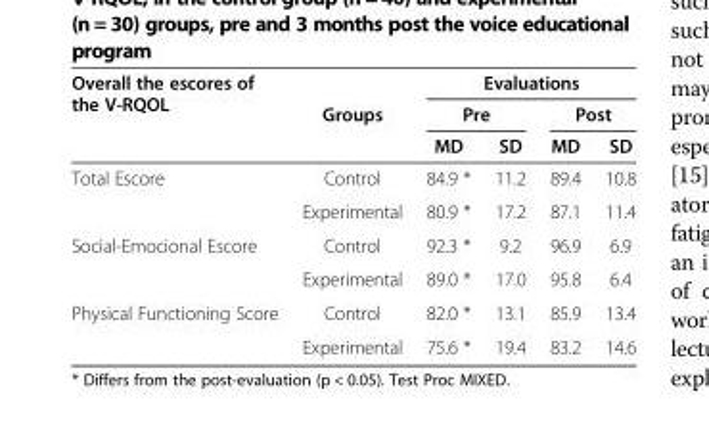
<table><thead><tr><td rowspan="3">Overall the escores of the V-RQOL</td><td rowspan="3">Groups</td><td colspan="4">Evaluations</td></tr><tr><td colspan="2">Pre</td><td colspan="2">Post</td></tr><tr><td>MD</td><td>SD</td><td>MD</td><td>SD</td></tr></thead><tbody><tr><td rowspan="2">Total Escore</td><td>Control</td><td>84.9 *</td><td>11.2</td><td>89.4</td><td>10.8</td></tr><tr><td>Experimental</td><td>80.9 *</td><td>17.2</td><td>87.1</td><td>11.4</td></tr><tr><td rowspan="2">Social-Emocional Escore</td><td>Control</td><td>92.3 *</td><td>9.2</td><td>96.9</td><td>6.9</td></tr><tr><td>Experimental</td><td>89.0 *</td><td>17.0</td><td>95.8</td><td>6.4</td></tr><tr><td rowspan="2">Physical Functioning Score</td><td>Control</td><td>82.0 *</td><td>13.1</td><td>85.9</td><td>13.4</td></tr><tr><td>Experimental</td><td>75.6 *</td><td>19.4</td><td>83.2</td><td>14.6</td></tr></tbody></table>